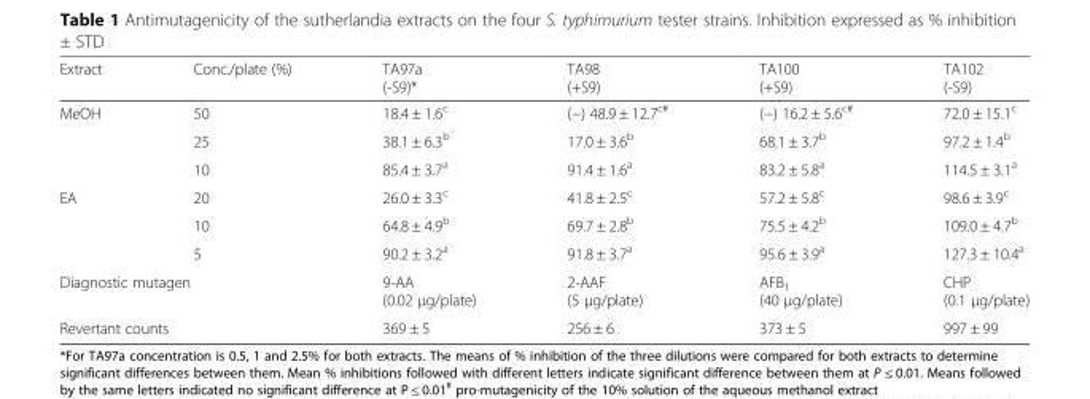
<table><thead><tr><td>Extract</td><td>Conc./plate (%)</td><td>TA97a (-S9)*</td><td>TA98 (+S9)</td><td>TA100 (+S9)</td><td>TA102 (-S9)</td></tr></thead><tbody><tr><td rowspan="3">MeOH</td><td>50</td><td>18.4 ± 1.6<sup>c</sup></td><td>(−) 48.9 ± 12.7<sup>c#</sup></td><td>(−) 16.2 ± 5.6<sup>c#</sup></td><td>72.0 ± 15.1<sup>c</sup></td></tr><tr><td>25</td><td>38.1 ± 6.3<sup>b</sup></td><td>17.0 ± 3.6<sup>b</sup></td><td>68.1 ± 3.7<sup>b</sup></td><td>97.2 ± 1.4<sup>b</sup></td></tr><tr><td>10</td><td>85.4 ± 3.7<sup>a</sup></td><td>91.4 ± 1.6<sup>a</sup></td><td>83.2 ± 5.8<sup>a</sup></td><td>114.5 ± 3.1<sup>a</sup></td></tr><tr><td rowspan="3">EA</td><td>20</td><td>26.0 ± 3.3<sup>c</sup></td><td>41.8 ± 2.5<sup>c</sup></td><td>57.2 ± 5.8<sup>c</sup></td><td>98.6 ± 3.9<sup>c</sup></td></tr><tr><td>10</td><td>64.8 ± 4.9<sup>b</sup></td><td>69.7 ± 2.8<sup>b</sup></td><td>75.5 ± 4.2<sup>b</sup></td><td>109.0 ± 4.7<sup>b</sup></td></tr><tr><td>5</td><td>90.2 ± 3.2<sup>a</sup></td><td>91.8 ± 3.7<sup>a</sup></td><td>95.6 ± 3.9<sup>a</sup></td><td>127.3 ± 10.4<sup>a</sup></td></tr><tr><td colspan="2">Diagnostic mutagen</td><td>9-AA (0.02 μg/plate)</td><td>2-AAF (5 μg/plate)</td><td>AFB<sub>1</sub> (40 μg/plate)</td><td>CHP (0.1 μg/plate)</td></tr><tr><td colspan="2">Revertant counts</td><td>369 ± 5</td><td>256 ± 6</td><td>373 ± 5</td><td>997 ± 99</td></tr></tbody></table>